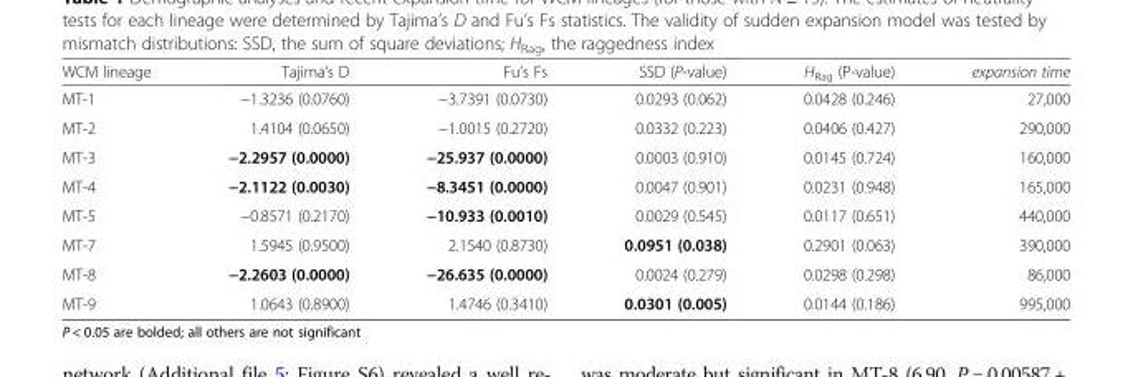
<table><thead><tr><td>WCM lineage</td><td>Tajima’s D</td><td>Fu’s Fs</td><td>SSD (P-value)</td><td>H<sub>Rag</sub> (P-value)</td><td>expansion time</td></tr></thead><tbody><tr><td>MT-1</td><td>−1.3236 (0.0760)</td><td>−3.7391 (0.0730)</td><td>0.0293 (0.062)</td><td>0.0428 (0.246)</td><td>27,000</td></tr><tr><td>MT-2</td><td>1.4104 (0.0650)</td><td>−1.0015 (0.2720)</td><td>0.0332 (0.223)</td><td>0.0406 (0.427)</td><td>290,000</td></tr><tr><td>MT-3</td><td>−2.2957 (0.0000)</td><td>−25.937 (0.0000)</td><td>0.0003 (0.910)</td><td>0.0145 (0.724)</td><td>160,000</td></tr><tr><td>MT-4</td><td>−2.1122 (0.0030)</td><td>−8.3451 (0.0000)</td><td>0.0047 (0.901)</td><td>0.0231 (0.948)</td><td>165,000</td></tr><tr><td>MT-5</td><td>−0.8571 (0.2170)</td><td>−10.933 (0.0010)</td><td>0.0029 (0.545)</td><td>0.0117 (0.651)</td><td>440,000</td></tr><tr><td>MT-7</td><td>1.5945 (0.9500)</td><td>2.1540 (0.8730)</td><td>0.0951 (0.038)</td><td>0.2901 (0.063)</td><td>390,000</td></tr><tr><td>MT-8</td><td>−2.2603 (0.0000)</td><td>−26.635 (0.0000)</td><td>0.0024 (0.279)</td><td>0.0298 (0.298)</td><td>86,000</td></tr><tr><td>MT-9</td><td>1.0643 (0.8900)</td><td>1.4746 (0.3410)</td><td>0.0301 (0.005)</td><td>0.0144 (0.186)</td><td>995,000</td></tr></tbody></table>